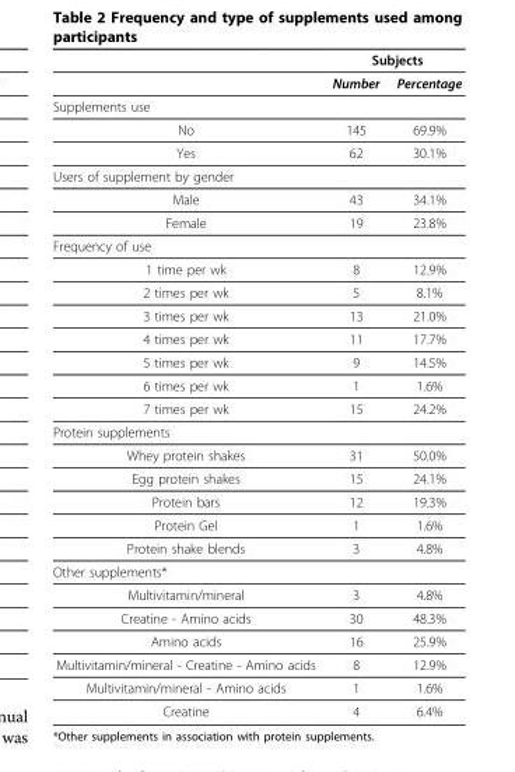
<table><thead><tr><td rowspan="2"></td><td colspan="2">Subjects</td></tr><tr><td>Number</td><td>Percentage</td></tr></thead><tbody><tr><td colspan="3">Supplements use</td></tr><tr><td>No</td><td>145</td><td>69.9%</td></tr><tr><td>Yes</td><td>62</td><td>30.1%</td></tr><tr><td colspan="3">Users of supplement by gender</td></tr><tr><td>Male</td><td>43</td><td>34.1%</td></tr><tr><td>Female</td><td>19</td><td>23.8%</td></tr><tr><td colspan="3">Frequency of use</td></tr><tr><td>1 time per wk</td><td>8</td><td>12.9%</td></tr><tr><td>2 times per wk</td><td>5</td><td>8.1%</td></tr><tr><td>3 times per wk</td><td>13</td><td>21.0%</td></tr><tr><td>4 times per wk</td><td>11</td><td>17.7%</td></tr><tr><td>5 times per wk</td><td>9</td><td>14.5%</td></tr><tr><td>6 times per wk</td><td>1</td><td>1.6%</td></tr><tr><td>7 times per wk</td><td>15</td><td>24.2%</td></tr><tr><td colspan="3">Protein supplements</td></tr><tr><td>Whey protein shakes</td><td>31</td><td>50.0%</td></tr><tr><td>Egg protein shakes</td><td>15</td><td>24.1%</td></tr><tr><td>Protein bars</td><td>12</td><td>19.3%</td></tr><tr><td>Protein Gel</td><td>1</td><td>1.6%</td></tr><tr><td>Protein shake blends</td><td>3</td><td>4.8%</td></tr><tr><td colspan="3">Other supplements*</td></tr><tr><td>Multivitamin/mineral</td><td>3</td><td>4.8%</td></tr><tr><td>Creatine - Amino acids</td><td>30</td><td>48.3%</td></tr><tr><td>Amino acids</td><td>16</td><td>25.9%</td></tr><tr><td>Multivitamin/mineral - Creatine - Amino acids</td><td>8</td><td>12.9%</td></tr><tr><td>Multivitamin/mineral - Amino acids</td><td>1</td><td>1.6%</td></tr><tr><td>Creatine</td><td>4</td><td>6.4%</td></tr></tbody></table>